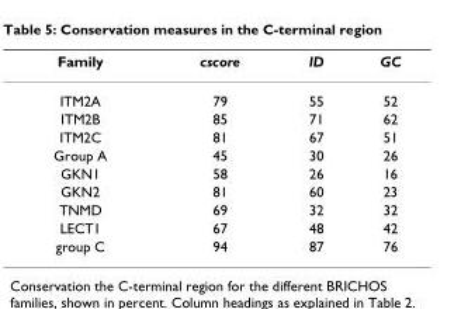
<table><thead><tr><td>Family</td><td>cscore</td><td>ID</td><td>GC</td></tr></thead><tbody><tr><td>ITM2A</td><td>79</td><td>55</td><td>52</td></tr><tr><td>ITM2B</td><td>85</td><td>71</td><td>62</td></tr><tr><td>ITM2C</td><td>81</td><td>67</td><td>51</td></tr><tr><td>Group A</td><td>45</td><td>30</td><td>26</td></tr><tr><td>GKN1</td><td>58</td><td>26</td><td>16</td></tr><tr><td>GKN2</td><td>81</td><td>60</td><td>23</td></tr><tr><td>TNMD</td><td>69</td><td>32</td><td>32</td></tr><tr><td>LECT1</td><td>67</td><td>48</td><td>42</td></tr><tr><td>group C</td><td>94</td><td>87</td><td>76</td></tr></tbody></table>